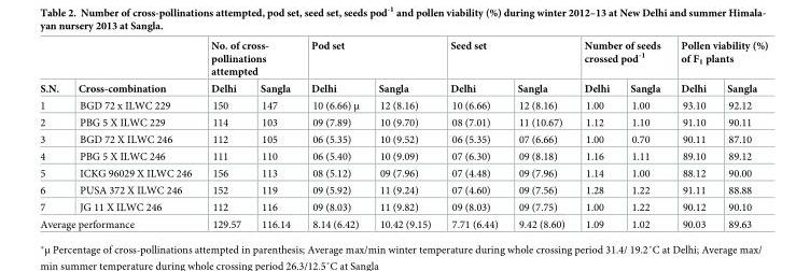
<table><thead><tr><td rowspan="2">S.N.</td><td rowspan="2">Cross-combination</td><td colspan="2">No. of cross- pollinations attempted</td><td colspan="2">Pod set</td><td colspan="2">Seed set</td><td colspan="2">Number of seeds crossed pod<sup>-1</sup></td><td colspan="2">Pollen viability (%) of F<sub>1</sub> plants</td></tr><tr><td>Delhi</td><td>Sangla</td><td>Delhi</td><td>Sangla</td><td>Delhi</td><td>Sangla</td><td>Delhi</td><td>Sangla</td><td>Delhi</td><td>Sangla</td></tr></thead><tbody><tr><td>1</td><td>BGD 72 x ILWC 229</td><td>150</td><td>147</td><td>10 (6.66) μ</td><td>12 (8.16)</td><td>10 (6.66)</td><td>12 (8.16)</td><td>1.00</td><td>1.00</td><td>93.10</td><td>92.12</td></tr><tr><td>2</td><td>PBG 5 X ILWC 229</td><td>114</td><td>103</td><td>09 (7.89)</td><td>10 (9.70)</td><td>08 (7.01)</td><td>11 (10.67)</td><td>1.12</td><td>1.10</td><td>91.10</td><td>90.11</td></tr><tr><td>3</td><td>BGD 72 X ILWC 246</td><td>112</td><td>105</td><td>06 (5.35)</td><td>10 (9.52)</td><td>06 (5.35)</td><td>07 (6.66)</td><td>1.00</td><td>0.70</td><td>90.11</td><td>87.10</td></tr><tr><td>4</td><td>PBG 5 X ILWC 246</td><td>111</td><td>110</td><td>06 (5.40)</td><td>10 (9.09)</td><td>07 (6.30)</td><td>09 (8.18)</td><td>1.16</td><td>1.11</td><td>89.10</td><td>89.12</td></tr><tr><td>5</td><td>ICKG 96029 X ILWC 246</td><td>156</td><td>113</td><td>08 (5.12)</td><td>09 (7.96)</td><td>07 (4.48)</td><td>09 (7.96)</td><td>1.14</td><td>1.00</td><td>88.12</td><td>90.00</td></tr><tr><td>6</td><td>PUSA 372 X ILWC 246</td><td>152</td><td>119</td><td>09 (5.92)</td><td>11 (9.24)</td><td>07 (4.60)</td><td>09 (7.56)</td><td>1.28</td><td>1.22</td><td>91.11</td><td>88.88</td></tr><tr><td>7</td><td>JG 11 X ILWC 246</td><td>112</td><td>116</td><td>09 (8.03)</td><td>11 (9.82)</td><td>09 (8.03)</td><td>09 (7.75)</td><td>1.00</td><td>1.22</td><td>90.12</td><td>90.10</td></tr><tr><td colspan="2">Average performance</td><td>129.57</td><td>116.14</td><td>8.14 (6.42)</td><td>10.42 (9.15)</td><td>7.71 (6.44)</td><td>9.42 (8.60)</td><td>1.09</td><td>1.02</td><td>90.03</td><td>89.63</td></tr></tbody></table>